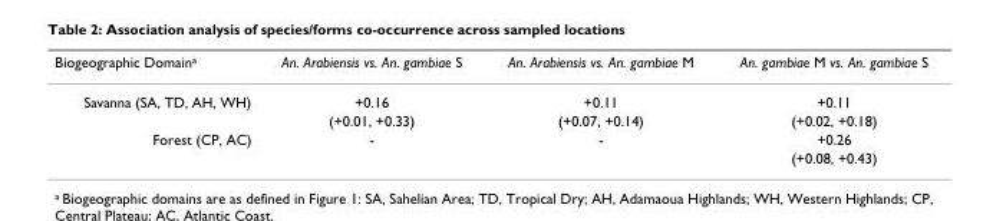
<table><thead><tr><td>Biogeographic Domain<sup>a</sup></td><td>An. Arabiensis vs. An. gambiae S</td><td>An. Arabiensis vs. An. gambiae M</td><td>An. gambiae M vs. An. gambiae S</td></tr></thead><tbody><tr><td rowspan="2">Savanna (SA, TD, AH, WH)</td><td>+0.16</td><td>+0.11</td><td>+0.11</td></tr><tr><td>(+0.01, +0.33)</td><td>(+0.07, +0.14)</td><td>(+0.02, +0.18)</td></tr><tr><td rowspan="2">Forest (CP, AC)</td><td>-</td><td>-</td><td>+0.26</td></tr><tr><td></td><td></td><td>(+0.08, +0.43)</td></tr></tbody></table>